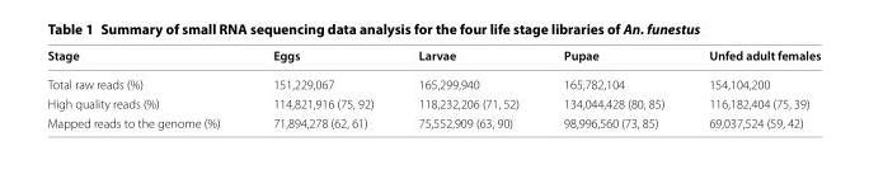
<table><thead><tr><td>Stage</td><td>Eggs</td><td>Larvae</td><td>Pupae</td><td>Unfed adult females</td></tr></thead><tbody><tr><td>Total raw reads (%)</td><td>151,229,067</td><td>165,299,940</td><td>165,782,104</td><td>154,104,200</td></tr><tr><td>High quality reads (%)</td><td>114,821,916 (75, 92)</td><td>118,232,206 (71, 52)</td><td>134,044,428 (80, 85)</td><td>116,182,404 (75, 39)</td></tr><tr><td>Mapped reads to the genome (%)</td><td>71,894,278 (62, 61)</td><td>75,552,909 (63, 90)</td><td>98,996,560 (73, 85)</td><td>69,037,524 (59, 42)</td></tr></tbody></table>